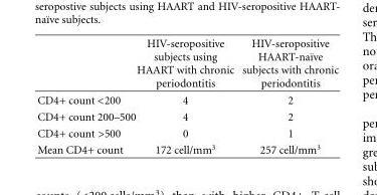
<table><thead><tr><td></td><td>HIV-seropositive subjects using HAART with chronic periodontitis</td><td>HIV-seropositive HAART-na¨ıve subjects with chronic periodontitis</td></tr></thead><tbody><tr><td>CD4+ count &lt;200</td><td>4</td><td>2</td></tr><tr><td>CD4+ count 200–500</td><td>4</td><td>2</td></tr><tr><td>CD4+ count &gt;500</td><td>0</td><td>1</td></tr><tr><td>Mean CD4+ count</td><td>172 cell/mm<sup>3</sup></td><td>257 cell/mm<sup>3</sup></td></tr></tbody></table>